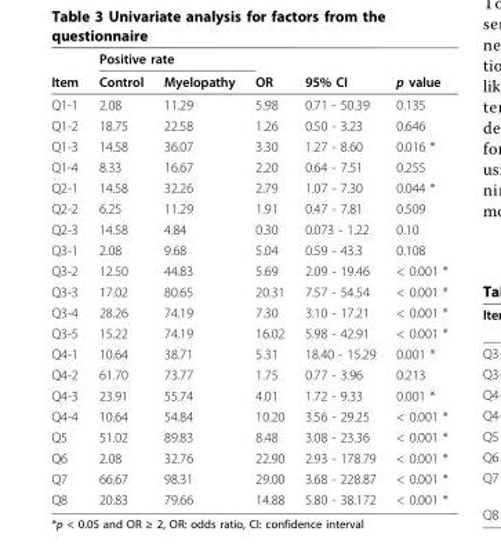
<table><thead><tr><td rowspan="2">Item</td><td colspan="2">Positive rate</td><td rowspan="2">OR</td><td rowspan="2">95% CI</td><td rowspan="2">p value</td></tr><tr><td>Control</td><td>Myelopathy</td></tr></thead><tbody><tr><td>Q1-1</td><td>2.08</td><td>11.29</td><td>5.98</td><td>0.71 - 50.39</td><td>0.135</td></tr><tr><td>Q1-2</td><td>18.75</td><td>22.58</td><td>1.26</td><td>0.50 - 3.23</td><td>0.646</td></tr><tr><td>Q1-3</td><td>14.58</td><td>36.07</td><td>3.30</td><td>1.27 - 8.60</td><td>0.016 *</td></tr><tr><td>Q1-4</td><td>8.33</td><td>16.67</td><td>2.20</td><td>0.64 - 7.51</td><td>0.255</td></tr><tr><td>Q2-1</td><td>14.58</td><td>32.26</td><td>2.79</td><td>1.07 - 7.30</td><td>0.044 *</td></tr><tr><td>Q2-2</td><td>6.25</td><td>11.29</td><td>1.91</td><td>0.47 - 7.81</td><td>0.509</td></tr><tr><td>Q2-3</td><td>14.58</td><td>4.84</td><td>0.30</td><td>0.073 - 1.22</td><td>0.10</td></tr><tr><td>Q3-1</td><td>2.08</td><td>9.68</td><td>5.04</td><td>0.59 - 43.3</td><td>0.108</td></tr><tr><td>Q3-2</td><td>12.50</td><td>44.83</td><td>5.69</td><td>2.09 - 19.46</td><td>&lt; 0.001 *</td></tr><tr><td>Q3-3</td><td>17.02</td><td>80.65</td><td>20.31</td><td>7.57 - 54.54</td><td>&lt; 0.001 *</td></tr><tr><td>Q3-4</td><td>28.26</td><td>74.19</td><td>7.30</td><td>3.10 - 17.21</td><td>&lt; 0.001 *</td></tr><tr><td>Q3-5</td><td>15.22</td><td>74.19</td><td>16.02</td><td>5.98 - 42.91</td><td>&lt; 0.001 *</td></tr><tr><td>Q4-1</td><td>10.64</td><td>38.71</td><td>5.31</td><td>18.40 - 15.29</td><td>0.001 *</td></tr><tr><td>Q4-2</td><td>61.70</td><td>73.77</td><td>1.75</td><td>0.77 - 3.96</td><td>0.213</td></tr><tr><td>Q4-3</td><td>23.91</td><td>55.74</td><td>4.01</td><td>1.72 - 9.33</td><td>0.001 *</td></tr><tr><td>Q4-4</td><td>10.64</td><td>54.84</td><td>10.20</td><td>3.56 - 29.25</td><td>&lt; 0.001 *</td></tr><tr><td>Q5</td><td>51.02</td><td>89.83</td><td>8.48</td><td>3.08 - 23.36</td><td>&lt; 0.001 *</td></tr><tr><td>Q6</td><td>2.08</td><td>32.76</td><td>22.90</td><td>2.93 - 178.79</td><td>&lt; 0.001 *</td></tr><tr><td>Q7</td><td>66.67</td><td>98.31</td><td>29.00</td><td>3.68 - 228.87</td><td>&lt; 0.001 *</td></tr><tr><td>Q8</td><td>20.83</td><td>79.66</td><td>14.88</td><td>5.80 - 38.172</td><td>&lt; 0.001 *</td></tr></tbody></table>